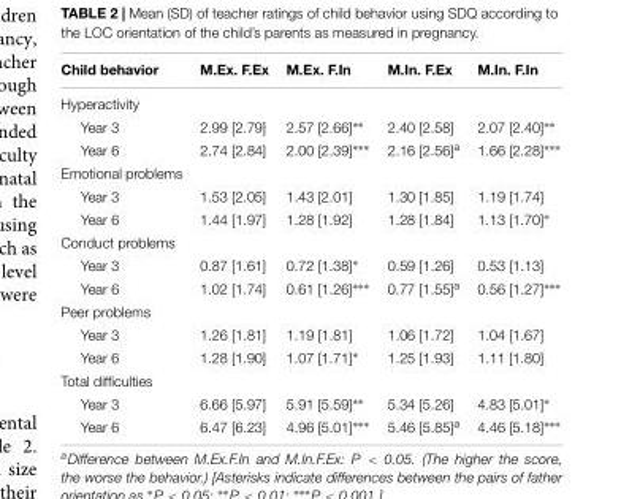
<table><thead><tr><td>Child behavior</td><td>M.Ex. F.Ex</td><td>M.Ex. F.In</td><td>M.In. F.Ex</td><td>M.In. F.In</td></tr></thead><tbody><tr><td colspan="5">Hyperactivity</td></tr><tr><td>Year 3</td><td>2.99 [2.79]</td><td>2.57 [2.66]∗∗</td><td>2.40 [2.58]</td><td>2.07 [2.40]∗∗</td></tr><tr><td>Year 6</td><td>2.74 [2.84]</td><td>2.00 [2.39]∗∗∗</td><td>2.16 [2.56]<sup>a</sup></td><td>1.66 [2.28]∗∗∗</td></tr><tr><td colspan="5">Emotional problems</td></tr><tr><td>Year 3</td><td>1.53 [2.05]</td><td>1.43 [2.01]</td><td>1.30 [1.85]</td><td>1.19 [1.74]</td></tr><tr><td>Year 6</td><td>1.44 [1.97]</td><td>1.28 [1.92]</td><td>1.28 [1.84]</td><td>1.13 [1.70]∗</td></tr><tr><td colspan="5">Conduct problems</td></tr><tr><td>Year 3</td><td>0.87 [1.61]</td><td>0.72 [1.38]∗</td><td>0.59 [1.26]</td><td>0.53 [1.13]</td></tr><tr><td>Year 6</td><td>1.02 [1.74]</td><td>0.61 [1.26]∗∗∗</td><td>0.77 [1.55]<sup>a</sup></td><td>0.56 [1.27]∗∗∗</td></tr><tr><td colspan="5">Peer problems</td></tr><tr><td>Year 3</td><td>1.26 [1.81]</td><td>1.19 [1.81]</td><td>1.06 [1.72]</td><td>1.04 [1.67]</td></tr><tr><td>Year 6</td><td>1.28 [1.90]</td><td>1.07 [1.71]∗</td><td>1.25 [1.93]</td><td>1.11 [1.80]</td></tr><tr><td colspan="5">Total difficulties</td></tr><tr><td>Year 3</td><td>6.66 [5.97]</td><td>5.91 [5.59]∗∗</td><td>5.34 [5.26]</td><td>4.83 [5.01]∗</td></tr><tr><td>Year 6</td><td>6.47 [6.23]</td><td>4.96 [5.01]∗∗∗</td><td>5.46 [5.85]<sup>a</sup></td><td>4.46 [5.18]∗∗∗</td></tr></tbody></table>